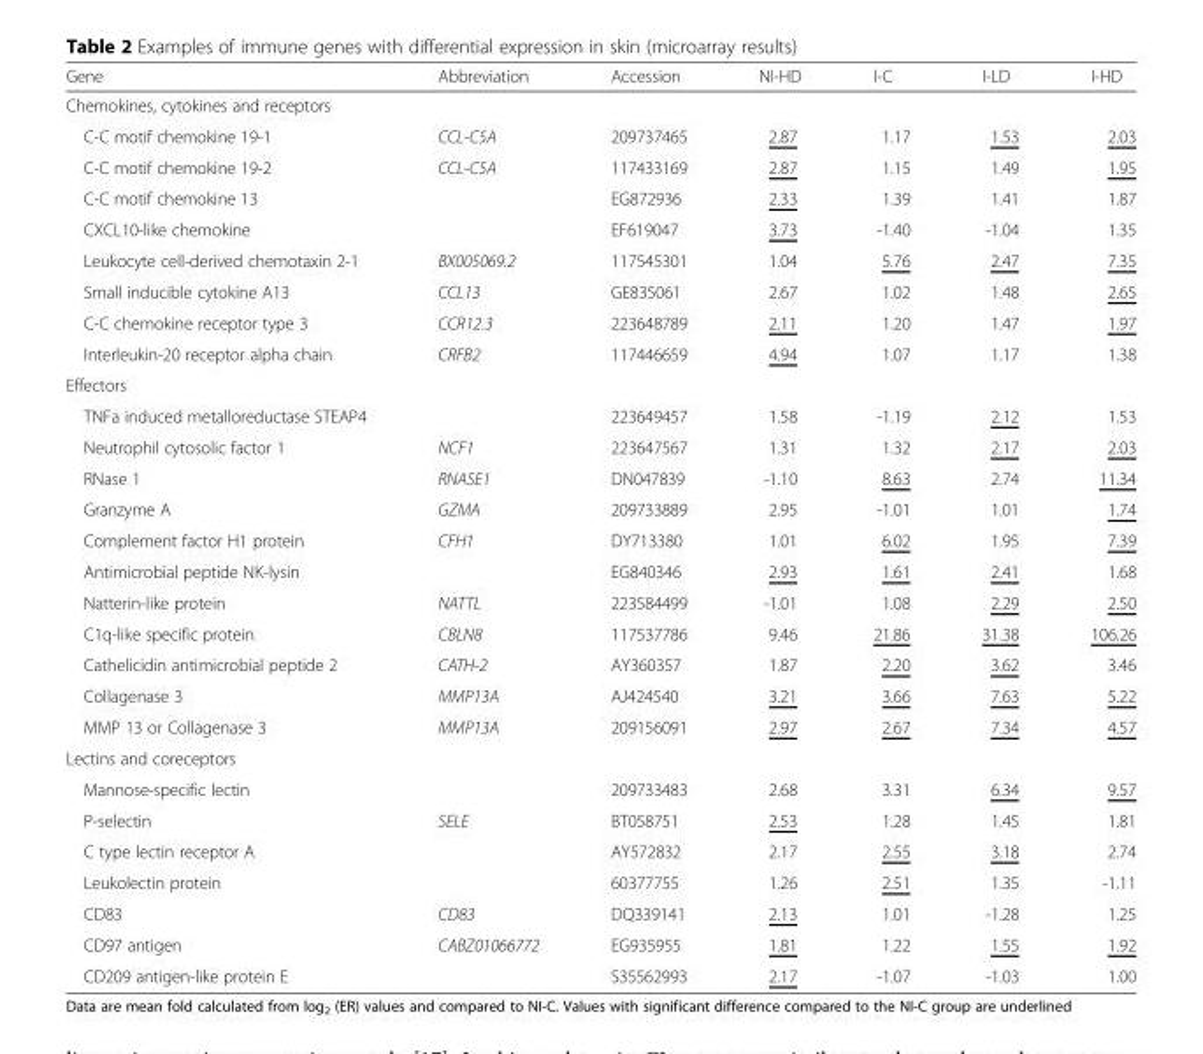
<table><thead><tr><td>Gene</td><td>Abbreviation</td><td>Accession</td><td>NI-HD</td><td>I-C</td><td>I-LD</td><td>I-HD</td></tr></thead><tbody><tr><td colspan="7">Chemokines, cytokines and receptors</td></tr><tr><td>C-C motif chemokine 19-1</td><td>CCL-C5A</td><td>209737465</td><td>2.87</td><td>1.17</td><td>1.53</td><td>2.03</td></tr><tr><td>C-C motif chemokine 19-2</td><td>CCL-C5A</td><td>117433169</td><td>2.87</td><td>1.15</td><td>1.49</td><td>1.95</td></tr><tr><td>C-C motif chemokine 13</td><td></td><td>EG872936</td><td>2.33</td><td>1.39</td><td>1.41</td><td>1.87</td></tr><tr><td>CXCL10-like chemokine</td><td></td><td>EF619047</td><td>3.73</td><td>-1.40</td><td>-1.04</td><td>1.35</td></tr><tr><td>Leukocyte cell-derived chemotaxin 2-1</td><td>BX005069.2</td><td>117545301</td><td>1.04</td><td>5.76</td><td>2.47</td><td>7.35</td></tr><tr><td>Small inducible cytokine A13</td><td>CCL13</td><td>GE835061</td><td>2.67</td><td>1.02</td><td>1.48</td><td>2.65</td></tr><tr><td>C-C chemokine receptor type 3</td><td>CCR12.3</td><td>223648789</td><td>2.11</td><td>1.20</td><td>1.47</td><td>1.97</td></tr><tr><td>Interleukin-20 receptor alpha chain</td><td>CRFB2</td><td>117446659</td><td>4.94</td><td>1.07</td><td>1.17</td><td>1.38</td></tr><tr><td colspan="7">Effectors</td></tr><tr><td>TNFa induced metalloreductase STEAP4</td><td></td><td>223649457</td><td>1.58</td><td>-1.19</td><td>2.12</td><td>1.53</td></tr><tr><td>Neutrophil cytosolic factor 1</td><td>NCF1</td><td>223647567</td><td>1.31</td><td>1.32</td><td>2.17</td><td>2.03</td></tr><tr><td>RNase 1</td><td>RNASE1</td><td>DN047839</td><td>-1.10</td><td>8.63</td><td>2.74</td><td>11.34</td></tr><tr><td>Granzyme A</td><td>GZMA</td><td>209733889</td><td>2.95</td><td>-1.01</td><td>1.01</td><td>1.74</td></tr><tr><td>Complement factor H1 protein</td><td>CFH1</td><td>DY713380</td><td>1.01</td><td>6.02</td><td>1.95</td><td>7.39</td></tr><tr><td>Antimicrobial peptide NK-lysin</td><td></td><td>EG840346</td><td>2.93</td><td>1.61</td><td>2.41</td><td>1.68</td></tr><tr><td>Natterin-like protein</td><td>NATTL</td><td>223584499</td><td>-1.01</td><td>1.08</td><td>2.29</td><td>2.50</td></tr><tr><td>C1q-like specific protein</td><td>CBLN8</td><td>117537786</td><td>9.46</td><td>21.86</td><td>31.38</td><td>106.26</td></tr><tr><td>Cathelicidin antimicrobial peptide 2</td><td>CATH-2</td><td>AY360357</td><td>1.87</td><td>2.20</td><td>3.62</td><td>3.46</td></tr><tr><td>Collagenase 3</td><td>MMP13A</td><td>AJ424540</td><td>3.21</td><td>3.66</td><td>7.63</td><td>5.22</td></tr><tr><td>MMP 13 or Collagenase 3</td><td>MMP13A</td><td>209156091</td><td>2.97</td><td>2.67</td><td>7.34</td><td>4.57</td></tr><tr><td colspan="7">Lectins and coreceptors</td></tr><tr><td>Mannose-specific lectin</td><td></td><td>209733483</td><td>2.68</td><td>3.31</td><td>6.34</td><td>9.57</td></tr><tr><td>P-selectin</td><td>SELE</td><td>BT058751</td><td>2.53</td><td>1.28</td><td>1.45</td><td>1.81</td></tr><tr><td>C type lectin receptor A</td><td></td><td>AY572832</td><td>2.17</td><td>2.55</td><td>3.18</td><td>2.74</td></tr><tr><td>Leukolectin protein</td><td></td><td>60377755</td><td>1.26</td><td>2.51</td><td>1.35</td><td>-1.11</td></tr><tr><td>CD83</td><td>CD83</td><td>DQ339141</td><td>2.13</td><td>1.01</td><td>-1.28</td><td>1.25</td></tr><tr><td>CD97 antigen</td><td>CABZ01066772</td><td>EG935955</td><td>1.81</td><td>1.22</td><td>1.55</td><td>1.92</td></tr><tr><td>CD209 antigen-like protein E</td><td></td><td>S35562993</td><td>2.17</td><td>-1.07</td><td>-1.03</td><td>1.00</td></tr></tbody></table>